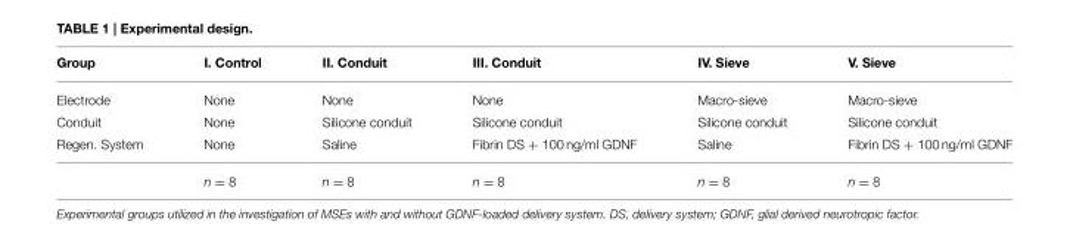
<table><thead><tr><td>Group</td><td>I. Control</td><td>II. Conduit</td><td>III. Conduit</td><td>IV. Sieve</td><td>V. Sieve</td></tr></thead><tbody><tr><td>Electrode</td><td>None</td><td>None</td><td>None</td><td>Macro-sieve</td><td>Macro-sieve</td></tr><tr><td>Conduit</td><td>None</td><td>Silicone conduit</td><td>Silicone conduit</td><td>Silicone conduit</td><td>Silicone conduit</td></tr><tr><td rowspan="2">Regen. System</td><td>None</td><td>Saline</td><td>Fibrin DS + 100 ng/ml GDNF</td><td>Saline</td><td>Fibrin DS + 100 ng/ml GDNF</td></tr><tr><td>n = 8</td><td>n = 8</td><td>n = 8</td><td>n = 8</td><td>n = 8</td></tr></tbody></table>